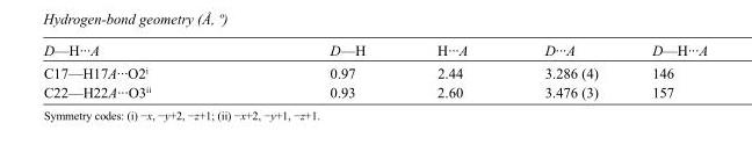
<table><tbody><tr><td>D—H···A</td><td>D—H</td><td>H···A</td><td>D···A</td><td>D—H···A</td></tr><tr><td>C17—H17A···O2<sup>i</sup></td><td>0.97</td><td>2.44</td><td>3.286 (4)</td><td>146</td></tr><tr><td>C22—H22A···O3<sup>ii</sup></td><td>0.93</td><td>2.60</td><td>3.476 (3)</td><td>157</td></tr></tbody></table>